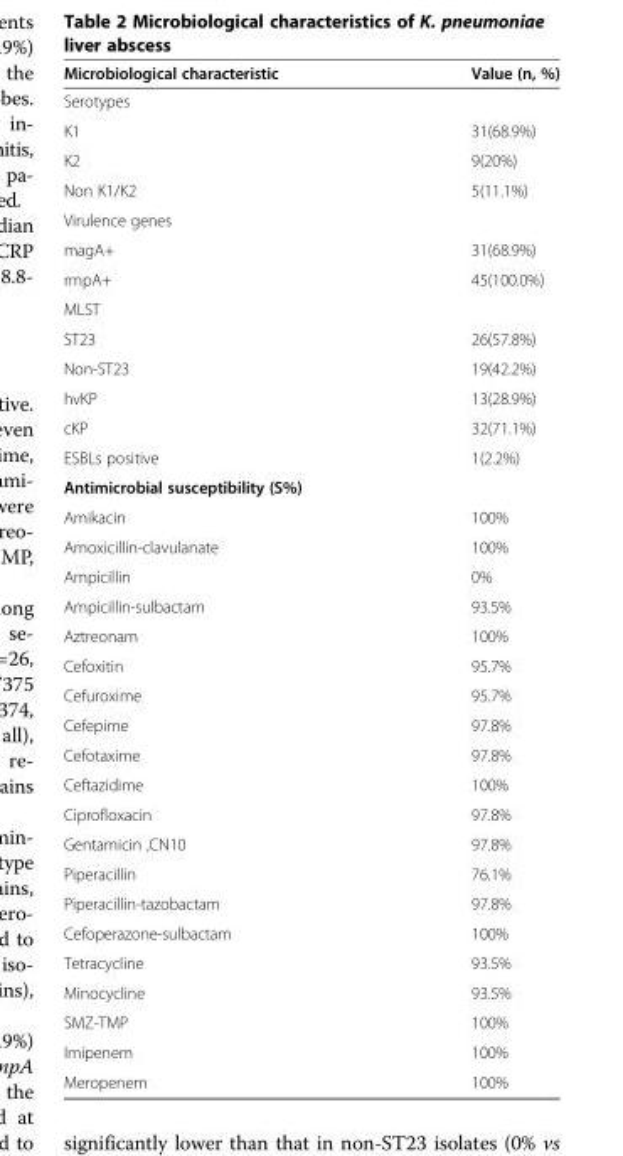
<table><thead><tr><td>Microbiological characteristic</td><td>Value (n, %)</td></tr></thead><tbody><tr><td colspan="2">Serotypes</td></tr><tr><td>K1</td><td>31(68.9%)</td></tr><tr><td>K2</td><td>9(20%)</td></tr><tr><td>Non K1/K2</td><td>5(11.1%)</td></tr><tr><td colspan="2">Virulence genes</td></tr><tr><td>magA+</td><td>31(68.9%)</td></tr><tr><td>rmpA+</td><td>45(100.0%)</td></tr><tr><td colspan="2">MLST</td></tr><tr><td>ST23</td><td>26(57.8%)</td></tr><tr><td>Non-ST23</td><td>19(42.2%)</td></tr><tr><td>hvKP</td><td>13(28.9%)</td></tr><tr><td>cKP</td><td>32(71.1%)</td></tr><tr><td>ESBLs positive</td><td>1(2.2%)</td></tr><tr><td colspan="2">Antimicrobial susceptibility (S%)</td></tr><tr><td>Amikacin</td><td>100%</td></tr><tr><td>Amoxicillin-clavulanate</td><td>100%</td></tr><tr><td>Ampicillin</td><td>0%</td></tr><tr><td>Ampicillin-sulbactam</td><td>93.5%</td></tr><tr><td>Aztreonam</td><td>100%</td></tr><tr><td>Cefoxitin</td><td>95.7%</td></tr><tr><td>Cefuroxime</td><td>95.7%</td></tr><tr><td>Cefepime</td><td>97.8%</td></tr><tr><td>Cefotaxime</td><td>97.8%</td></tr><tr><td>Ceftazidime</td><td>100%</td></tr><tr><td>Ciprofloxacin</td><td>97.8%</td></tr><tr><td>Gentamicin ,CN10</td><td>97.8%</td></tr><tr><td>Piperacillin</td><td>76.1%</td></tr><tr><td>Piperacillin-tazobactam</td><td>97.8%</td></tr><tr><td>Cefoperazone-sulbactam</td><td>100%</td></tr><tr><td>Tetracycline</td><td>93.5%</td></tr><tr><td>Minocycline</td><td>93.5%</td></tr><tr><td>SMZ-TMP</td><td>100%</td></tr><tr><td>Imipenem</td><td>100%</td></tr><tr><td>Meropenem</td><td>100%</td></tr></tbody></table>